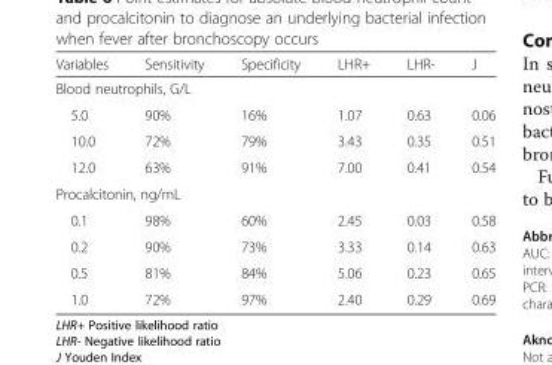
<table><thead><tr><td>Variables</td><td>Sensitivity</td><td>Specificity</td><td>LHR+</td><td>LHR-</td><td>J</td></tr></thead><tbody><tr><td colspan="6">Blood neutrophils, G/L</td></tr><tr><td>5.0</td><td>90%</td><td>16%</td><td>1.07</td><td>0.63</td><td>0.06</td></tr><tr><td>10.0</td><td>72%</td><td>79%</td><td>3.43</td><td>0.35</td><td>0.51</td></tr><tr><td>12.0</td><td>63%</td><td>91%</td><td>7.00</td><td>0.41</td><td>0.54</td></tr><tr><td colspan="6">Procalcitonin, ng/mL</td></tr><tr><td>0.1</td><td>98%</td><td>60%</td><td>2.45</td><td>0.03</td><td>0.58</td></tr><tr><td>0.2</td><td>90%</td><td>73%</td><td>3.33</td><td>0.14</td><td>0.63</td></tr><tr><td>0.5</td><td>81%</td><td>84%</td><td>5.06</td><td>0.23</td><td>0.65</td></tr><tr><td>1.0</td><td>72%</td><td>97%</td><td>2.40</td><td>0.29</td><td>0.69</td></tr></tbody></table>